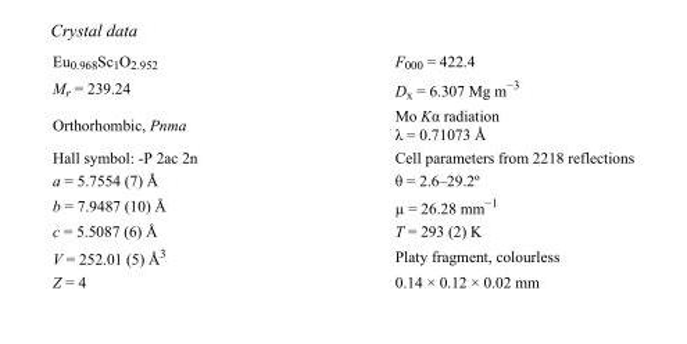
<table><tbody><tr><td>Eu0.968Sc1O2.952</td><td>F000 = 422.4</td></tr><tr><td>M<sub>r</sub> = 239.24</td><td>D<sub>x</sub> = 6.307 Mg m<sup>−3</sup></td></tr><tr><td>Orthorhombic, Pnma</td><td>Mo Kα radiation λ = 0.71073 Å</td></tr><tr><td>Hall symbol: -P 2ac 2n</td><td>Cell parameters from 2218 reflections</td></tr><tr><td>a = 5.7554 (7) Å</td><td>θ = 2.6–29.2º</td></tr><tr><td>b = 7.9487 (10) Å</td><td>µ = 26.28 mm<sup>−1</sup></td></tr><tr><td>c = 5.5087 (6) Å</td><td>T = 293 (2) K</td></tr><tr><td>V = 252.01 (5) Å<sup>3</sup></td><td>Platy fragment, colourless</td></tr><tr><td>Z = 4</td><td>0.14 × 0.12 × 0.02 mm</td></tr></tbody></table>